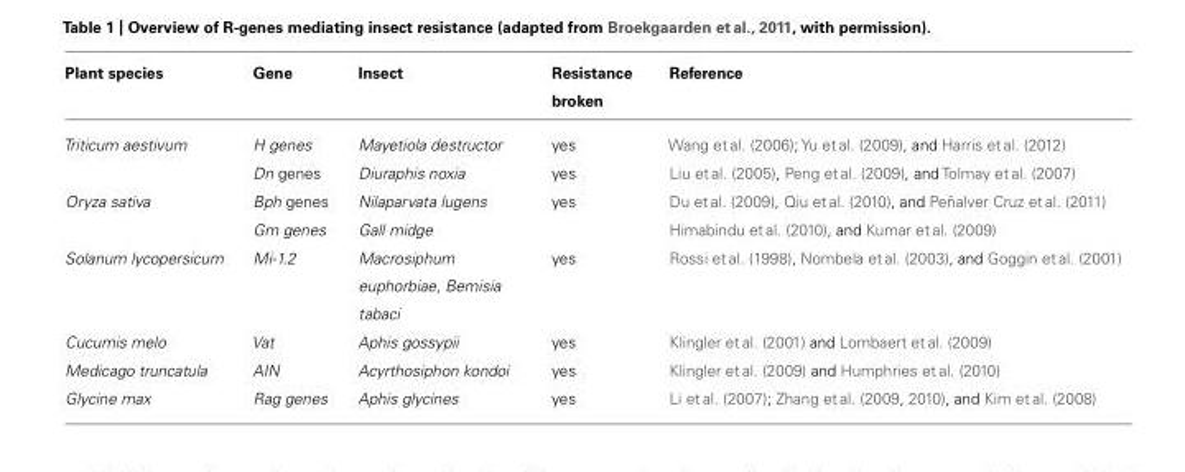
<table><thead><tr><td>Plant species</td><td>Gene</td><td>Insect</td><td>Resistance broken</td><td>Reference</td></tr></thead><tbody><tr><td rowspan="2">Triticum aestivum</td><td>H genes</td><td>Mayetiola destructor</td><td>yes</td><td>Wang et al. (2006); Yu et al. (2009), and Harris et al. (2012)</td></tr><tr><td>Dn genes</td><td>Diuraphis noxia</td><td>yes</td><td>Liu et al. (2005), Peng et al. (2009), and Tolmay et al. (2007)</td></tr><tr><td rowspan="2">Oryza sativa</td><td>Bph genes</td><td>Nilaparvata lugens</td><td>yes</td><td>Du et al. (2009), Qiu et al. (2010), and Peñalver Cruz et al. (2011)</td></tr><tr><td>Gm genes</td><td>Gall midge</td><td></td><td>Himabindu et al. (2010), and Kumar et al. (2009)</td></tr><tr><td>Solanum lycopersicum</td><td>Mi-1.2</td><td>Macrosiphum euphorbiae, Bemisia tabaci</td><td>yes</td><td>Rossi et al. (1998), Nombela et al. (2003), and Goggin et al. (2001)</td></tr><tr><td>Cucumis melo</td><td>Vat</td><td>Aphis gossypii</td><td>yes</td><td>Klingler et al. (2001) and Lombaert et al. (2009)</td></tr><tr><td>Medicago truncatula</td><td>AIN</td><td>Acyrthosiphon kondoi</td><td>yes</td><td>Klingler et al. (2009) and Humphries et al. (2010)</td></tr><tr><td>Glycine max</td><td>Rag genes</td><td>Aphis glycines</td><td>yes</td><td>Li et al. (2007); Zhang et al. (2009, 2010), and Kim et al. (2008)</td></tr></tbody></table>